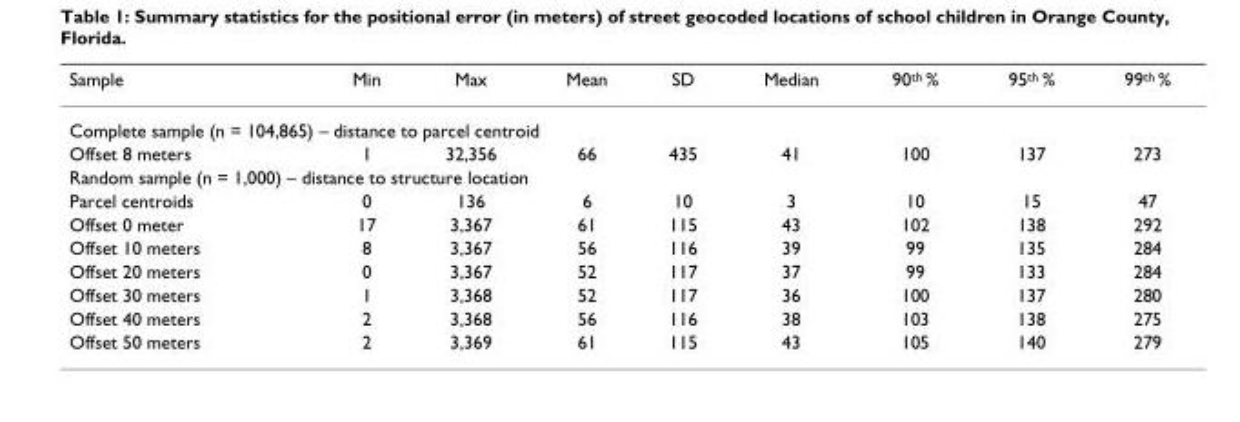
<table><thead><tr><td>Sample</td><td>Min</td><td>Max</td><td>Mean</td><td>SD</td><td>Median</td><td>90<sup>th</sup> %</td><td>95<sup>th</sup> %</td><td>99<sup>th</sup> %</td></tr></thead><tbody><tr><td colspan="9">Complete sample (n = 104,865) – distance to parcel centroid</td></tr><tr><td>Offset 8 meters</td><td>1</td><td>32,356</td><td>66</td><td>435</td><td>41</td><td>100</td><td>137</td><td>273</td></tr><tr><td colspan="9">Random sample (n = 1,000) – distance to structure location</td></tr><tr><td>Parcel centroids</td><td>0</td><td>136</td><td>6</td><td>10</td><td>3</td><td>10</td><td>15</td><td>47</td></tr><tr><td>Offset 0 meter</td><td>17</td><td>3,367</td><td>61</td><td>115</td><td>43</td><td>102</td><td>138</td><td>292</td></tr><tr><td>Offset 10 meters</td><td>8</td><td>3,367</td><td>56</td><td>116</td><td>39</td><td>99</td><td>135</td><td>284</td></tr><tr><td>Offset 20 meters</td><td>0</td><td>3,367</td><td>52</td><td>117</td><td>37</td><td>99</td><td>133</td><td>284</td></tr><tr><td>Offset 30 meters</td><td>1</td><td>3,368</td><td>52</td><td>117</td><td>36</td><td>100</td><td>137</td><td>280</td></tr><tr><td>Offset 40 meters</td><td>2</td><td>3,368</td><td>56</td><td>116</td><td>38</td><td>103</td><td>138</td><td>275</td></tr><tr><td>Offset 50 meters</td><td>2</td><td>3,369</td><td>61</td><td>115</td><td>43</td><td>105</td><td>140</td><td>279</td></tr></tbody></table>